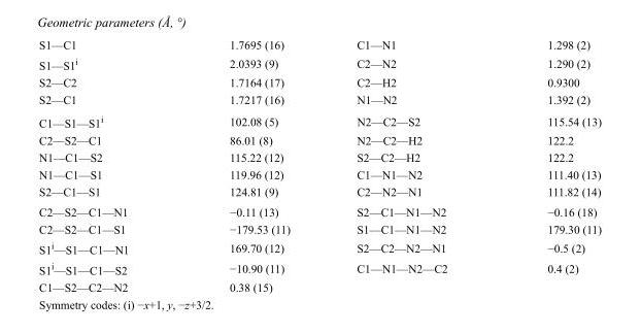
<table><tbody><tr><td>S1—C1</td><td>1.7695 (16)</td><td>C1—N1</td><td>1.298 (2)</td></tr><tr><td>S1—S1<sup>i</sup></td><td>2.0393 (9)</td><td>C2—N2</td><td>1.290 (2)</td></tr><tr><td>S2—C2</td><td>1.7164 (17)</td><td>C2—H2</td><td>0.9300</td></tr><tr><td>S2—C1</td><td>1.7217 (16)</td><td>N1—N2</td><td>1.392 (2)</td></tr><tr><td>C1—S1—S1<sup>i</sup></td><td>102.08 (5)</td><td>N2—C2—S2</td><td>115.54 (13)</td></tr><tr><td>C2—S2—C1</td><td>86.01 (8)</td><td>N2—C2—H2</td><td>122.2</td></tr><tr><td>N1—C1—S2</td><td>115.22 (12)</td><td>S2—C2—H2</td><td>122.2</td></tr><tr><td>N1—C1—S1</td><td>119.96 (12)</td><td>C1—N1—N2</td><td>111.40 (13)</td></tr><tr><td>S2—C1—S1</td><td>124.81 (9)</td><td>C2—N2—N1</td><td>111.82 (14)</td></tr><tr><td>C2—S2—C1—N1</td><td>−0.11 (13)</td><td>S2—C1—N1—N2</td><td>−0.16 (18)</td></tr><tr><td>C2—S2—C1—S1</td><td>−179.53 (11)</td><td>S1—C1—N1—N2</td><td>179.30 (11)</td></tr><tr><td>S1<sup>i</sup>—S1—C1—N1</td><td>169.70 (12)</td><td>S2—C2—N2—N1</td><td>−0.5 (2)</td></tr><tr><td>S1<sup>i</sup>—S1—C1—S2</td><td>−10.90 (11)</td><td>C1—N1—N2—C2</td><td>0.4 (2)</td></tr><tr><td>C1—S2—C2—N2</td><td>0.38 (15)</td><td></td><td></td></tr></tbody></table>